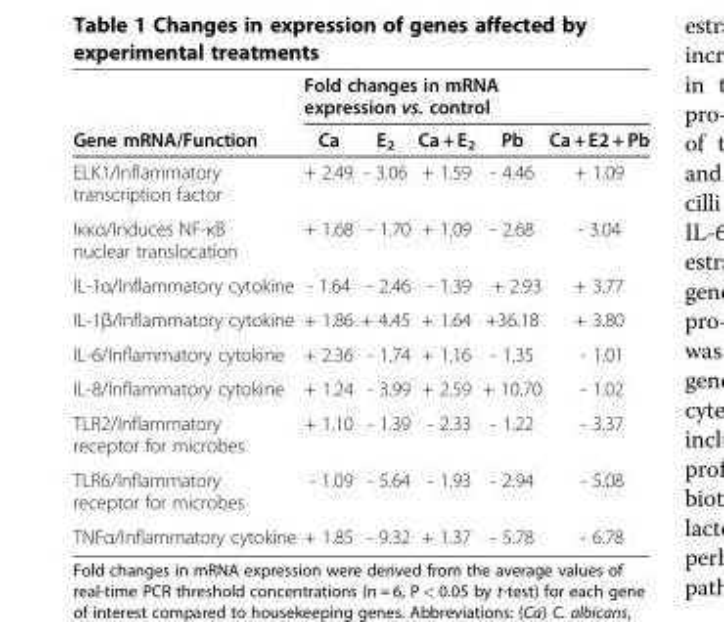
<table><thead><tr><td rowspan="2">Gene mRNA/Function</td><td colspan="5">Fold changes in mRNA expression vs. control</td></tr><tr><td>Ca</td><td>E<sub>2</sub></td><td>Ca + E<sub>2</sub></td><td>Pb</td><td>Ca + E2 + Pb</td></tr></thead><tbody><tr><td>ELK1/Inflammatory transcription factor</td><td>+ 2.49</td><td>- 3.06</td><td>+ 1.59</td><td>- 4.46</td><td>+ 1.09</td></tr><tr><td>Iκκα/Induces NF-κB nuclear translocation</td><td>+ 1.68</td><td>- 1.70</td><td>+ 1.09</td><td>- 2.68</td><td>- 3.04</td></tr><tr><td>IL-1α/Inflammatory cytokine</td><td>- 1.64</td><td>- 2.46</td><td>- 1.39</td><td>+ 2.93</td><td>+ 3.77</td></tr><tr><td>IL-1β/Inflammatory cytokine</td><td>+ 1.86</td><td>+ 4.45</td><td>+ 1.64</td><td>+36.18</td><td>+ 3.80</td></tr><tr><td>IL-6/Inflammatory cytokine</td><td>+ 2.36</td><td>- 1.74</td><td>+ 1.16</td><td>- 1.35</td><td>- 1.01</td></tr><tr><td>IL-8/Inflammatory cytokine</td><td>+ 1.24</td><td>- 3.99</td><td>+ 2.59</td><td>+ 10.70</td><td>- 1.02</td></tr><tr><td>TLR2/Inflammatory receptor for microbes</td><td>+ 1.10</td><td>- 1.39</td><td>- 2.33</td><td>- 1.22</td><td>- 3.37</td></tr><tr><td>TLR6/Inflammatory receptor for microbes</td><td>- 1.09</td><td>- 5.64</td><td>- 1.93</td><td>- 2.94</td><td>- 5.08</td></tr><tr><td>TNFα/Inflammatory cytokine</td><td>+ 1.85</td><td>- 9.32</td><td>+ 1.37</td><td>- 5.78</td><td>- 6.78</td></tr></tbody></table>